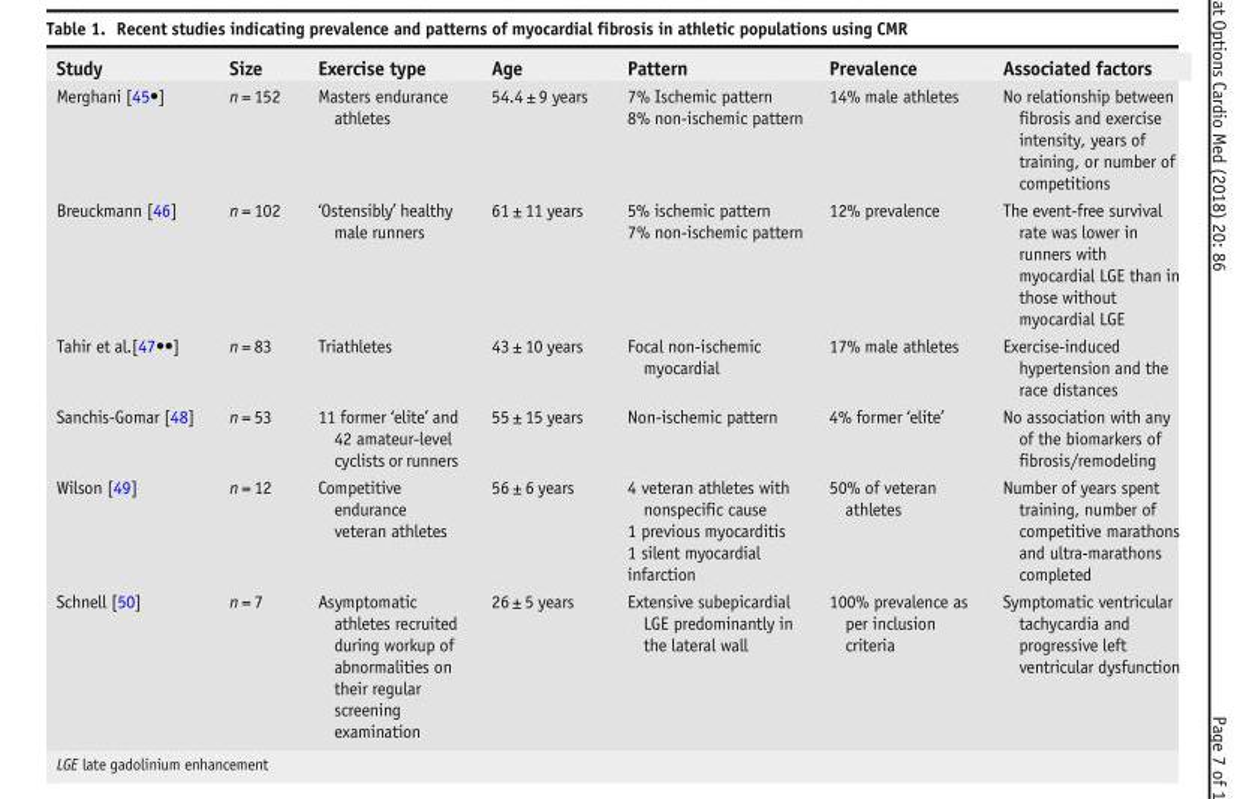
<table><thead><tr><td>Study</td><td>Size</td><td>Exercise type</td><td>Age</td><td>Pattern</td><td>Prevalence</td><td>Associated factors</td></tr></thead><tbody><tr><td>Merghani [45•]</td><td>n = 152</td><td>Masters endurance athletes</td><td>54.4 ± 9 years</td><td>7% Ischemic pattern 8% non-ischemic pattern</td><td>14% male athletes</td><td>No relationship between fibrosis and exercise intensity, years of training, or number of competitions</td></tr><tr><td>Breuckmann [46]</td><td>n = 102</td><td>‘Ostensibly’ healthy male runners</td><td>61 ± 11 years</td><td>5% ischemic pattern 7% non-ischemic pattern</td><td>12% prevalence</td><td>The event-free survival rate was lower in runners with myocardial LGE than in those without myocardial LGE</td></tr><tr><td>Tahir et al.[47••]</td><td>n = 83</td><td>Triathletes</td><td>43 ± 10 years</td><td>Focal non-ischemic myocardial</td><td>17% male athletes</td><td>Exercise-induced hypertension and the race distances</td></tr><tr><td>Sanchis-Gomar [48]</td><td>n = 53</td><td>11 former ‘elite’ and 42 amateur-level cyclists or runners</td><td>55 ± 15 years</td><td>Non-ischemic pattern</td><td>4% former ‘elite’</td><td>No association with any of the biomarkers of fibrosis/remodeling</td></tr><tr><td>Wilson [49]</td><td>n = 12</td><td>Competitive endurance veteran athletes</td><td>56 ± 6 years</td><td>4 veteran athletes with nonspecific cause 1 previous myocarditis 1 silent myocardial infarction</td><td>50% of veteran athletes</td><td>Number of years spent training, number of competitive marathons and ultra-marathons completed</td></tr><tr><td>Schnell [50]</td><td>n = 7</td><td>Asymptomatic athletes recruited during workup of abnormalities on their regular screening examination</td><td>26 ± 5 years</td><td>Extensive subepicardial LGE predominantly in the lateral wall</td><td>100% prevalence as per inclusion criteria</td><td>Symptomatic ventricular tachycardia and progressive left ventricular dysfunction</td></tr></tbody></table>